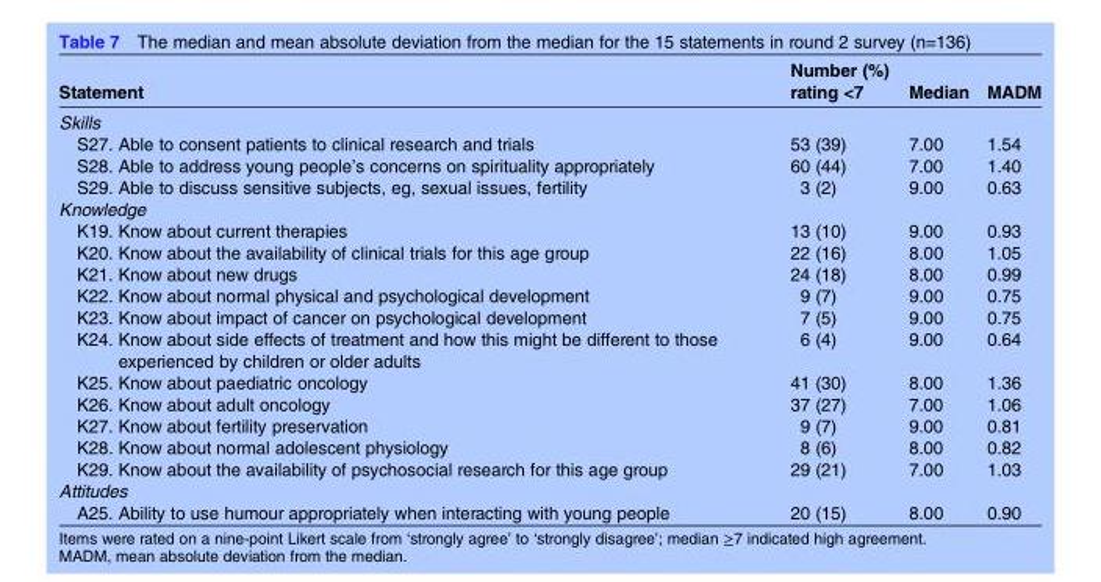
<table><thead><tr><td>Statement</td><td>Number (%) rating &lt;7</td><td>Median</td><td>MADM</td></tr></thead><tbody><tr><td colspan="4">Skills</td></tr><tr><td>S27. Able to consent patients to clinical research and trials</td><td>53 (39)</td><td>7.00</td><td>1.54</td></tr><tr><td>S28. Able to address young people’s concerns on spirituality appropriately</td><td>60 (44)</td><td>7.00</td><td>1.40</td></tr><tr><td>S29. Able to discuss sensitive subjects, eg, sexual issues, fertility</td><td>3 (2)</td><td>9.00</td><td>0.63</td></tr><tr><td colspan="4">Knowledge</td></tr><tr><td>K19. Know about current therapies</td><td>13 (10)</td><td>9.00</td><td>0.93</td></tr><tr><td>K20. Know about the availability of clinical trials for this age group</td><td>22 (16)</td><td>8.00</td><td>1.05</td></tr><tr><td>K21. Know about new drugs</td><td>24 (18)</td><td>8.00</td><td>0.99</td></tr><tr><td>K22. Know about normal physical and psychological development</td><td>9 (7)</td><td>9.00</td><td>0.75</td></tr><tr><td>K23. Know about impact of cancer on psychological development</td><td>7 (5)</td><td>9.00</td><td>0.75</td></tr><tr><td>K24. Know about side effects of treatment and how this might be different to those experienced by children or older adults</td><td>6 (4)</td><td>9.00</td><td>0.64</td></tr><tr><td>K25. Know about paediatric oncology</td><td>41 (30)</td><td>8.00</td><td>1.36</td></tr><tr><td>K26. Know about adult oncology</td><td>37 (27)</td><td>7.00</td><td>1.06</td></tr><tr><td>K27. Know about fertility preservation</td><td>9 (7)</td><td>9.00</td><td>0.81</td></tr><tr><td>K28. Know about normal adolescent physiology</td><td>8 (6)</td><td>8.00</td><td>0.82</td></tr><tr><td>K29. Know about the availability of psychosocial research for this age group</td><td>29 (21)</td><td>7.00</td><td>1.03</td></tr><tr><td colspan="4">Attitudes</td></tr><tr><td>A25. Ability to use humour appropriately when interacting with young people</td><td>20 (15)</td><td>8.00</td><td>0.90</td></tr></tbody></table>